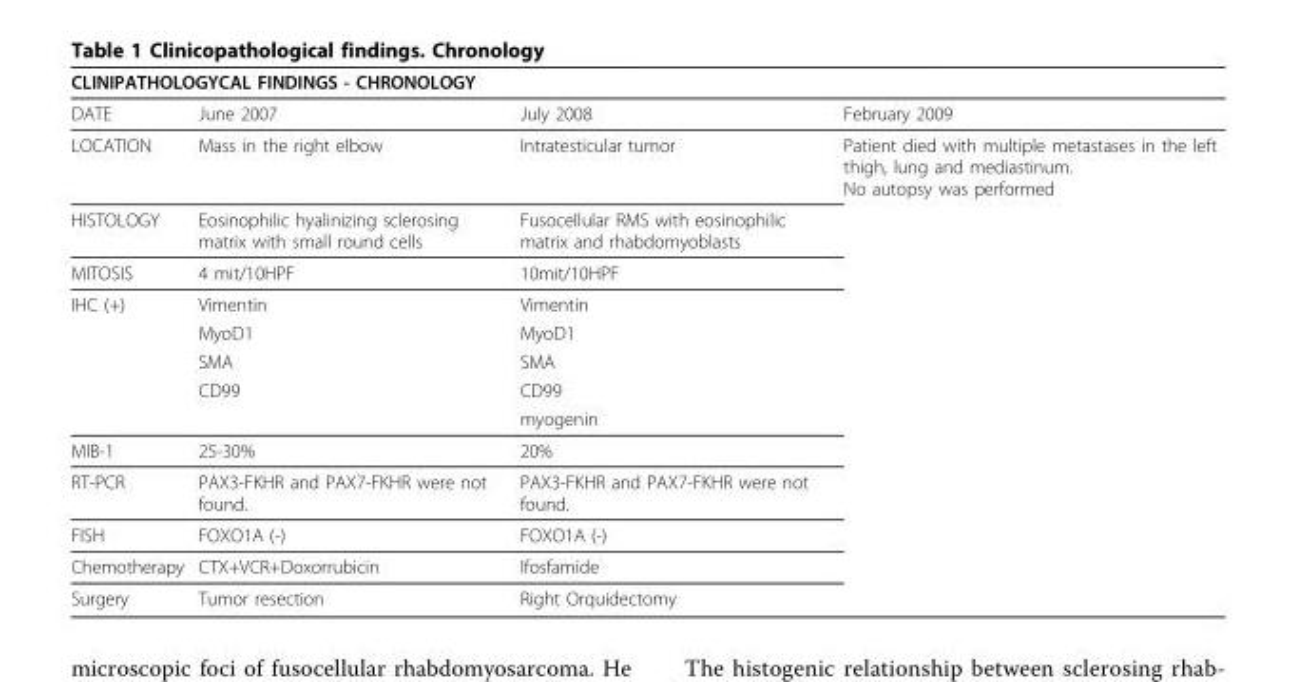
<table><thead><tr><td colspan="4">CLINIPATHOLOGYCAL FINDINGS - CHRONOLOGY</td></tr><tr><td>DATE</td><td>June 2007</td><td>July 2008</td><td>February 2009</td></tr></thead><tbody><tr><td>LOCATION</td><td>Mass in the right elbow</td><td>Intratesticular tumor</td><td>Patient died with multiple metastases in the left thigh, lung and mediastinum. No autopsy was performed</td></tr><tr><td>HISTOLOGY</td><td>Eosinophilic hyalinizing sclerosing matrix with small round cells</td><td>Fusocellular RMS with eosinophilic matrix and rhabdomyoblasts</td><td></td></tr><tr><td>MITOSIS</td><td>4 mit/10HPF</td><td>10mit/10HPF</td><td></td></tr><tr><td rowspan="5">IHC (+)</td><td>Vimentin</td><td>Vimentin</td><td></td></tr><tr><td>MyoD1</td><td>MyoD1</td><td></td></tr><tr><td>SMA</td><td>SMA</td><td></td></tr><tr><td>CD99</td><td>CD99</td><td></td></tr><tr><td></td><td>myogenin</td><td></td></tr><tr><td>MIB-1</td><td>25-30%</td><td>20%</td><td></td></tr><tr><td>RT-PCR</td><td>PAX3-FKHR and PAX7-FKHR were not found.</td><td>PAX3-FKHR and PAX7-FKHR were not found.</td><td></td></tr><tr><td>FISH</td><td>FOXO1A (-)</td><td>FOXO1A (-)</td><td></td></tr><tr><td>Chemotherapy</td><td>CTX+VCR+Doxorrubicin</td><td>Ifosfamide</td><td></td></tr><tr><td>Surgery</td><td>Tumor resection</td><td>Right Orquidectomy</td><td></td></tr></tbody></table>